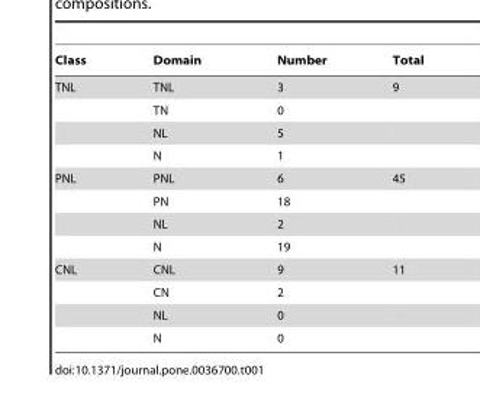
<table><thead><tr><td>Class</td><td>Domain</td><td>Number</td><td>Total</td></tr></thead><tbody><tr><td rowspan="4">TNL</td><td>TNL</td><td>3</td><td>9</td></tr><tr><td>TN</td><td>0</td><td></td></tr><tr><td>NL</td><td>5</td><td></td></tr><tr><td>N</td><td>1</td><td></td></tr><tr><td rowspan="4">PNL</td><td>PNL</td><td>6</td><td>45</td></tr><tr><td>PN</td><td>18</td><td></td></tr><tr><td>NL</td><td>2</td><td></td></tr><tr><td>N</td><td>19</td><td></td></tr><tr><td rowspan="4">CNL</td><td>CNL</td><td>9</td><td>11</td></tr><tr><td>CN</td><td>2</td><td></td></tr><tr><td>NL</td><td>0</td><td></td></tr><tr><td>N</td><td>0</td><td></td></tr></tbody></table>